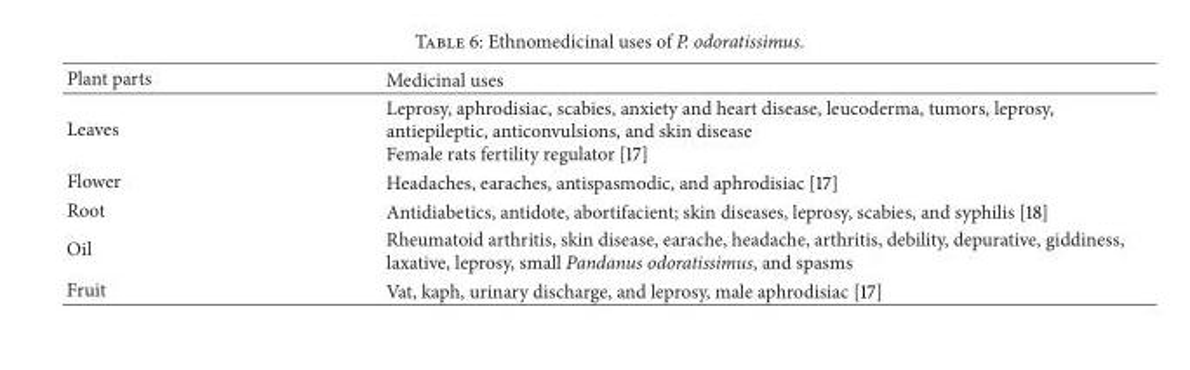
<table><thead><tr><td>Plant parts</td><td>Medicinal uses</td></tr></thead><tbody><tr><td>Leaves</td><td>Leprosy, aphrodisiac, scabies, anxiety and heart disease, leucoderma, tumors, leprosy, antiepileptic, anticonvulsions, and skin disease Female rats fertility regulator [17]</td></tr><tr><td>Flower</td><td>Headaches, earaches, antispasmodic, and aphrodisiac [17]</td></tr><tr><td>Root</td><td>Antidiabetics, antidote, abortifacient; skin diseases, leprosy, scabies, and syphilis [18]</td></tr><tr><td>Oil</td><td>Rheumatoid arthritis, skin disease, earache, headache, arthritis, debility, depurative, giddiness, laxative, leprosy, small Pandanus odoratissimus, and spasms</td></tr><tr><td>Fruit</td><td>Vat, kaph, urinary discharge, and leprosy, male aphrodisiac [17]</td></tr></tbody></table>